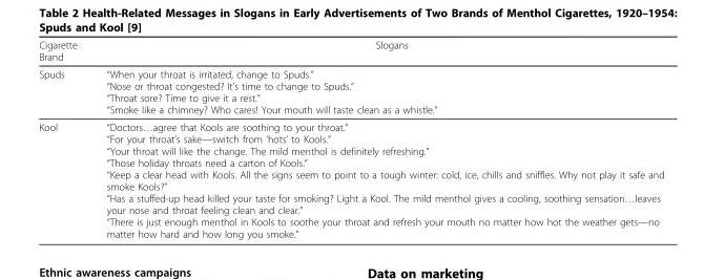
<table><thead><tr><td>Cigarette Brand</td><td>Slogans</td></tr></thead><tbody><tr><td>Spuds</td><td>“When your throat is irritated, change to Spuds.” “Nose or throat congested? It’s time to change to Spuds.” “Throat sore? Time to give it a rest.” “Smoke like a chimney? Who cares! Your mouth will taste clean as a whistle.”</td></tr><tr><td>Kool</td><td>“Doctors…agree that Kools are soothing to your throat.” “For your throat’s sake—switch from ‘hots’ to Kools.” “Your throat will like the change. The mild menthol is definitely refreshing.” “Those holiday throats need a carton of Kools.” “Keep a clear head with Kools. All the signs seem to point to a tough winter: cold, ice, chills and sniffles. Why not play it safe and smoke Kools?” “Has a stuffed-up head killed your taste for smoking? Light a Kool. The mild menthol gives a cooling, soothing sensation…leaves your nose and throat feeling clean and clear.” “There is just enough menthol in Kools to soothe your throat and refresh your mouth no matter how hot the weather gets—no matter how hard and how long you smoke.”</td></tr></tbody></table>